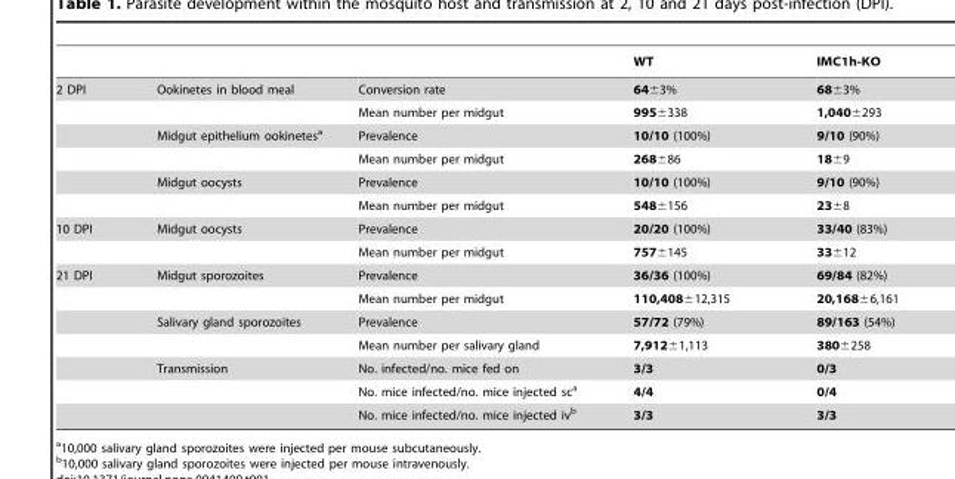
<table><thead><tr><td></td><td></td><td></td><td>WT</td><td>IMC1h-KO</td></tr></thead><tbody><tr><td rowspan="6">2 DPI</td><td>Ookinetes in blood meal</td><td>Conversion rate</td><td>64±3%</td><td>68±3%</td></tr><tr><td></td><td>Mean number per midgut</td><td>995±338</td><td>1,040±293</td></tr><tr><td>Midgut epithelium ookinetes<sup>a</sup></td><td>Prevalence</td><td>10/10 (100%)</td><td>9/10 (90%)</td></tr><tr><td></td><td>Mean number per midgut</td><td>268±86</td><td>18±9</td></tr><tr><td>Midgut oocysts</td><td>Prevalence</td><td>10/10 (100%)</td><td>9/10 (90%)</td></tr><tr><td></td><td>Mean number per midgut</td><td>548±156</td><td>23±8</td></tr><tr><td rowspan="2">10 DPI</td><td>Midgut oocysts</td><td>Prevalence</td><td>20/20 (100%)</td><td>33/40 (83%)</td></tr><tr><td></td><td>Mean number per midgut</td><td>757±145</td><td>33±12</td></tr><tr><td rowspan="7">21 DPI</td><td>Midgut sporozoites</td><td>Prevalence</td><td>36/36 (100%)</td><td>69/84 (82%)</td></tr><tr><td></td><td>Mean number per midgut</td><td>110,408±12,315</td><td>20,168±6,161</td></tr><tr><td>Salivary gland sporozoites</td><td>Prevalence</td><td>57/72 (79%)</td><td>89/163 (54%)</td></tr><tr><td></td><td>Mean number per salivary gland</td><td>7,912±1,113</td><td>380±258</td></tr><tr><td>Transmission</td><td>No. infected/no. mice fed on</td><td>3/3</td><td>0/3</td></tr><tr><td></td><td>No. mice infected/no. mice injected sc<sup>a</sup></td><td>4/4</td><td>0/4</td></tr><tr><td></td><td>No. mice infected/no. mice injected iv<sup>b</sup></td><td>3/3</td><td>3/3</td></tr></tbody></table>